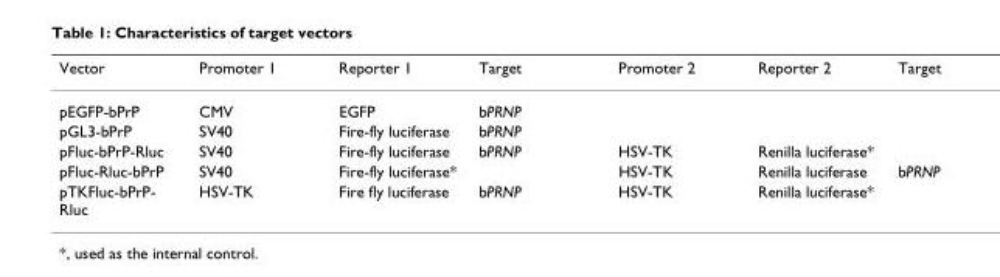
<table><thead><tr><td>Vector</td><td>Promoter 1</td><td>Reporter 1</td><td>Target</td><td>Promoter 2</td><td>Reporter 2</td><td>Target</td></tr></thead><tbody><tr><td>pEGFP-bPrP</td><td>CMV</td><td>EGFP</td><td>bPRNP</td><td></td><td></td><td></td></tr><tr><td>pGL3-bPrP</td><td>SV40</td><td>Fire-fly luciferase</td><td>bPRNP</td><td></td><td></td><td></td></tr><tr><td>pFluc-bPrP-Rluc</td><td>SV40</td><td>Fire-fly luciferase</td><td>bPRNP</td><td>HSV-TK</td><td>Renilla luciferase*</td><td></td></tr><tr><td>pFluc-Rluc-bPrP</td><td>SV40</td><td>Fire-fly luciferase*</td><td></td><td>HSV-TK</td><td>Renilla luciferase</td><td>bPRNP</td></tr><tr><td>pTKFluc-bPrP- Rluc</td><td>HSV-TK</td><td>Fire fly luciferase</td><td>bPRNP</td><td>HSV-TK</td><td>Renilla luciferase*</td><td></td></tr></tbody></table>